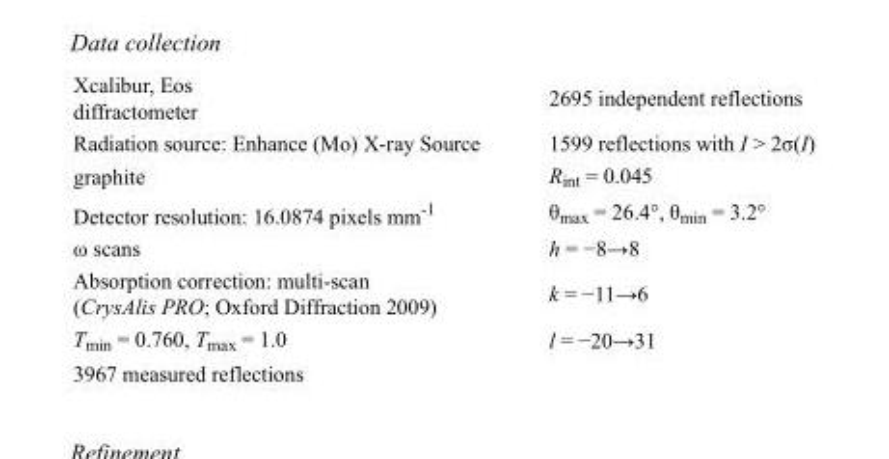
<table><tbody><tr><td>Xcalibur, Eos diffractometer</td><td>2695 independent reflections</td></tr><tr><td>Radiation source: Enhance (Mo) X-ray Source</td><td>1599 reflections with I &gt; 2σ(I)</td></tr><tr><td>graphite</td><td>R<sub>int</sub> = 0.045</td></tr><tr><td>Detector resolution: 16.0874 pixels mm<sup>-1</sup></td><td>θ<sub>max</sub> = 26.4°, θ<sub>min</sub> = 3.2°</td></tr><tr><td>ω scans</td><td>h = −8→8</td></tr><tr><td>Absorption correction: multi-scan (CrysAlis PRO; Oxford Diffraction 2009)</td><td>k = −11→6</td></tr><tr><td>T<sub>min</sub> = 0.760, T<sub>max</sub> = 1.0</td><td>l = −20→31</td></tr><tr><td>3967 measured reflections</td><td></td></tr></tbody></table>